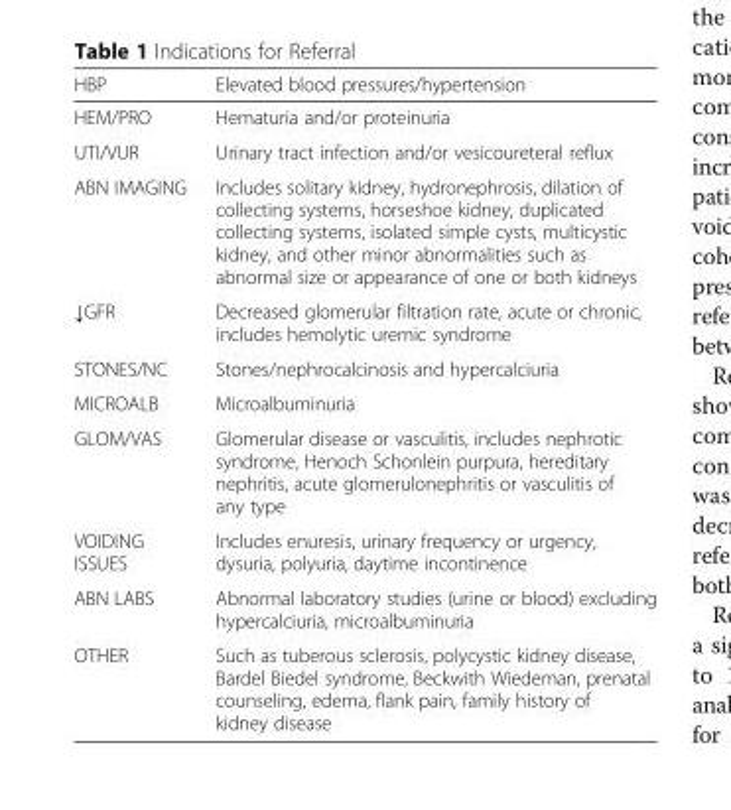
<table><thead><tr><td>HBP</td><td>Elevated blood pressures/hypertension</td></tr></thead><tbody><tr><td>HEM/PRO</td><td>Hematuria and/or proteinuria</td></tr><tr><td>UTI/VUR</td><td>Urinary tract infection and/or vesicoureteral reflux</td></tr><tr><td>ABN IMAGING</td><td>Includes solitary kidney, hydronephrosis, dilation of collecting systems, horseshoe kidney, duplicated collecting systems, isolated simple cysts, multicystic kidney, and other minor abnormalities such as abnormal size or appearance of one or both kidneys</td></tr><tr><td>↓GFR</td><td>Decreased glomerular filtration rate, acute or chronic, includes hemolytic uremic syndrome</td></tr><tr><td>STONES/NC</td><td>Stones/nephrocalcinosis and hypercalciuria</td></tr><tr><td>MICROALB</td><td>Microalbuminuria</td></tr><tr><td>GLOM/VAS</td><td>Glomerular disease or vasculitis, includes nephrotic syndrome, Henoch Schonlein purpura, hereditary nephritis, acute glomerulonephritis or vasculitis of any type</td></tr><tr><td>VOIDING ISSUES</td><td>Includes enuresis, urinary frequency or urgency, dysuria, polyuria, daytime incontinence</td></tr><tr><td>ABN LABS</td><td>Abnormal laboratory studies (urine or blood) excluding hypercalciuria, microalbuminuria</td></tr><tr><td>OTHER</td><td>Such as tuberous sclerosis, polycystic kidney disease, Bardel Biedel syndrome, Beckwith Wiedeman, prenatal counseling, edema, flank pain, family history of kidney disease</td></tr></tbody></table>